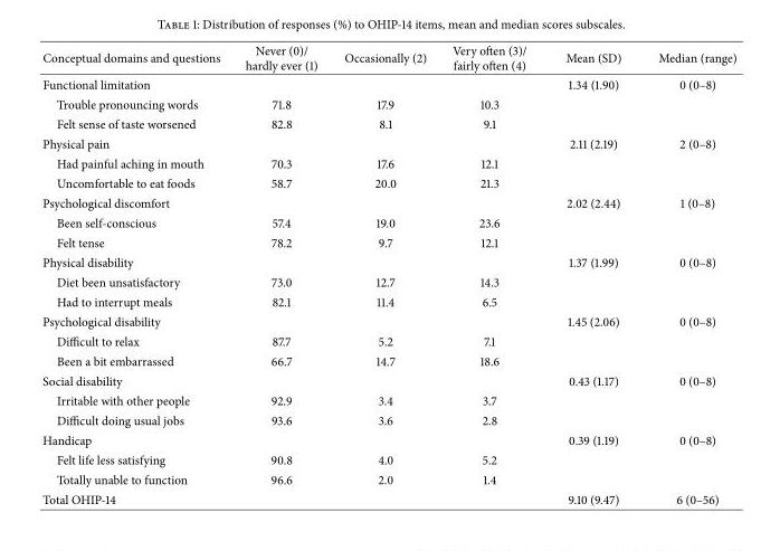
<table><thead><tr><td>Conceptual domains and questions</td><td>Never (0)/ hardly ever (1)</td><td>Occasionally (2)</td><td>Very often (3)/ fairly often (4)</td><td>Mean (SD)</td><td>Median (range)</td></tr></thead><tbody><tr><td>Functional limitation</td><td></td><td></td><td></td><td>1.34 (1.90)</td><td>0 (0–8)</td></tr><tr><td>Trouble pronouncing words</td><td>71.8</td><td>17.9</td><td>10.3</td><td></td><td></td></tr><tr><td>Felt sense of taste worsened</td><td>82.8</td><td>8.1</td><td>9.1</td><td></td><td></td></tr><tr><td>Physical pain</td><td></td><td></td><td></td><td>2.11 (2.19)</td><td>2 (0–8)</td></tr><tr><td>Had painful aching in mouth</td><td>70.3</td><td>17.6</td><td>12.1</td><td></td><td></td></tr><tr><td>Uncomfortable to eat foods</td><td>58.7</td><td>20.0</td><td>21.3</td><td></td><td></td></tr><tr><td>Psychological discomfort</td><td></td><td></td><td></td><td>2.02 (2.44)</td><td>1 (0–8)</td></tr><tr><td>Been self-conscious</td><td>57.4</td><td>19.0</td><td>23.6</td><td></td><td></td></tr><tr><td>Felt tense</td><td>78.2</td><td>9.7</td><td>12.1</td><td></td><td></td></tr><tr><td>Physical disability</td><td></td><td></td><td></td><td>1.37 (1.99)</td><td>0 (0–8)</td></tr><tr><td>Diet been unsatisfactory</td><td>73.0</td><td>12.7</td><td>14.3</td><td></td><td></td></tr><tr><td>Had to interrupt meals</td><td>82.1</td><td>11.4</td><td>6.5</td><td></td><td></td></tr><tr><td>Psychological disability</td><td></td><td></td><td></td><td>1.45 (2.06)</td><td>0 (0–8)</td></tr><tr><td>Difficult to relax</td><td>87.7</td><td>5.2</td><td>7.1</td><td></td><td></td></tr><tr><td>Been a bit embarrassed</td><td>66.7</td><td>14.7</td><td>18.6</td><td></td><td></td></tr><tr><td>Social disability</td><td></td><td></td><td></td><td>0.43 (1.17)</td><td>0 (0–8)</td></tr><tr><td>Irritable with other people</td><td>92.9</td><td>3.4</td><td>3.7</td><td></td><td></td></tr><tr><td>Difficult doing usual jobs</td><td>93.6</td><td>3.6</td><td>2.8</td><td></td><td></td></tr><tr><td>Handicap</td><td></td><td></td><td></td><td>0.39 (1.19)</td><td>0 (0–8)</td></tr><tr><td>Felt life less satisfying</td><td>90.8</td><td>4.0</td><td>5.2</td><td></td><td></td></tr><tr><td>Totally unable to function</td><td>96.6</td><td>2.0</td><td>1.4</td><td></td><td></td></tr><tr><td>Total OHIP-14</td><td></td><td></td><td></td><td>9.10 (9.47)</td><td>6 (0–56)</td></tr></tbody></table>